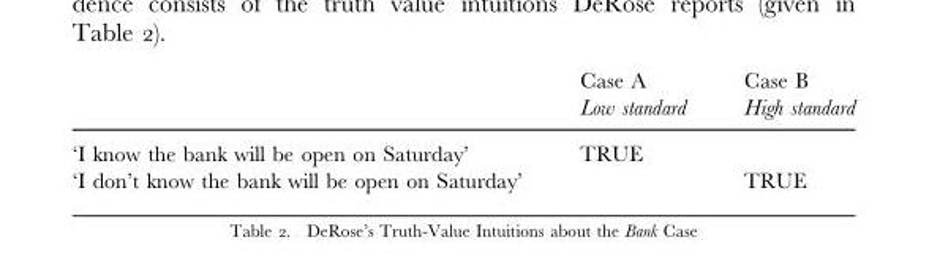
<table><thead><tr><td rowspan="2"></td><td rowspan="2">Case A Low standard</td><td rowspan="2">Case B High standard</td></tr><tr></tr></thead><tbody><tr><td>‘I know the bank will be open on Saturday’</td><td>TRUE</td><td></td></tr><tr><td>‘I don’t know the bank will be open on Saturday’</td><td></td><td>TRUE</td></tr></tbody></table>